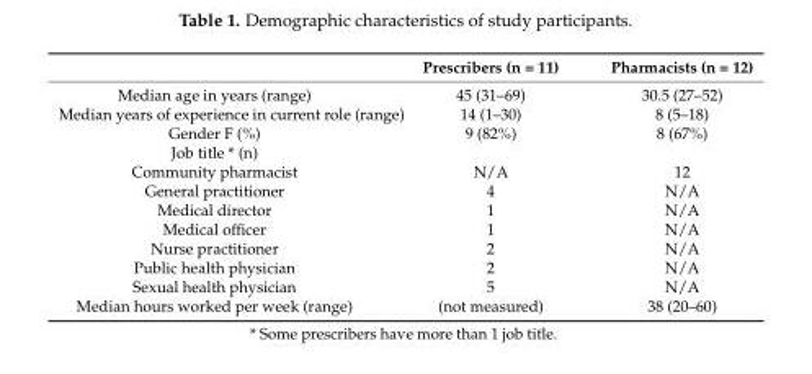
<table><thead><tr><td></td><td>Prescribers (n = 11)</td><td>Pharmacists (n = 12)</td></tr></thead><tbody><tr><td>Median age in years (range)</td><td>45 (31–69)</td><td>30.5 (27–52)</td></tr><tr><td>Median years of experience in current role (range)</td><td>14 (1–30)</td><td>8 (5–18)</td></tr><tr><td>Gender F (%)</td><td>9 (82%)</td><td>8 (67%)</td></tr><tr><td colspan="3">Job title * (n)</td></tr><tr><td>Community pharmacist</td><td>N/A</td><td>12</td></tr><tr><td>General practitioner</td><td>4</td><td>N/A</td></tr><tr><td>Medical director</td><td>1</td><td>N/A</td></tr><tr><td>Medical officer</td><td>1</td><td>N/A</td></tr><tr><td>Nurse practitioner</td><td>2</td><td>N/A</td></tr><tr><td>Public health physician</td><td>2</td><td>N/A</td></tr><tr><td>Sexual health physician</td><td>5</td><td>N/A</td></tr><tr><td>Median hours worked per week (range)</td><td>(not measured)</td><td>38 (20–60)</td></tr></tbody></table>